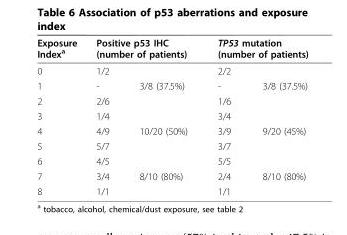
<table><thead><tr><td rowspan="2">Exposure Index<sup>a</sup> 0</td><td colspan="2">Positive p53 IHC (number of patients)</td><td colspan="2">TP53 mutation (number of patients)</td></tr><tr><td>1/2</td><td></td><td>2/2</td><td></td></tr></thead><tbody><tr><td>1</td><td>-</td><td>3/8 (37.5%)</td><td>-</td><td>3/8 (37.5%)</td></tr><tr><td>2</td><td>2/6</td><td></td><td>1/6</td><td></td></tr><tr><td>3</td><td>1/4</td><td></td><td>3/4</td><td></td></tr><tr><td>4</td><td>4/9</td><td>10/20 (50%)</td><td>3/9</td><td>9/20 (45%)</td></tr><tr><td>5</td><td>5/7</td><td></td><td>3/7</td><td></td></tr><tr><td>6</td><td>4/5</td><td></td><td>5/5</td><td></td></tr><tr><td>7</td><td>3/4</td><td>8/10 (80%)</td><td>2/4</td><td>8/10 (80%)</td></tr><tr><td>8</td><td>1/1</td><td></td><td>1/1</td><td></td></tr></tbody></table>